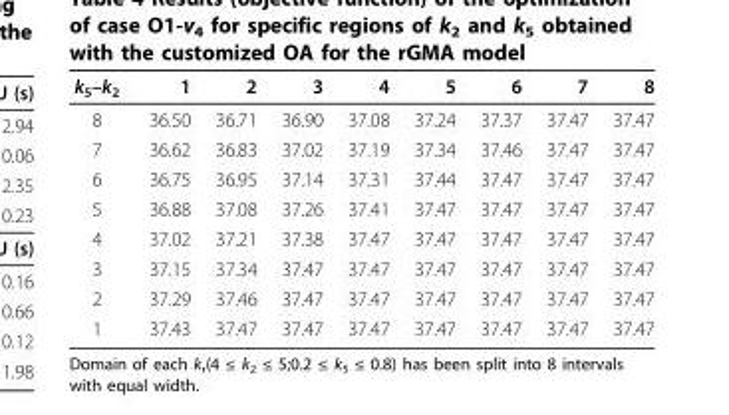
<table><thead><tr><td>k5–k2</td><td>1</td><td>2</td><td>3</td><td>4</td><td>5</td><td>6</td><td>7</td><td>8</td></tr></thead><tbody><tr><td>8</td><td>36.50</td><td>36.71</td><td>36.90</td><td>37.08</td><td>37.24</td><td>37.37</td><td>37.47</td><td>37.47</td></tr><tr><td>7</td><td>36.62</td><td>36.83</td><td>37.02</td><td>37.19</td><td>37.34</td><td>37.46</td><td>37.47</td><td>37.47</td></tr><tr><td>6</td><td>36.75</td><td>36.95</td><td>37.14</td><td>37.31</td><td>37.44</td><td>37.47</td><td>37.47</td><td>37.47</td></tr><tr><td>5</td><td>36.88</td><td>37.08</td><td>37.26</td><td>37.41</td><td>37.47</td><td>37.47</td><td>37.47</td><td>37.47</td></tr><tr><td>4</td><td>37.02</td><td>37.21</td><td>37.38</td><td>37.47</td><td>37.47</td><td>37.47</td><td>37.47</td><td>37.47</td></tr><tr><td>3</td><td>37.15</td><td>37.34</td><td>37.47</td><td>37.47</td><td>37.47</td><td>37.47</td><td>37.47</td><td>37.47</td></tr><tr><td>2</td><td>37.29</td><td>37.46</td><td>37.47</td><td>37.47</td><td>37.47</td><td>37.47</td><td>37.47</td><td>37.47</td></tr><tr><td>1</td><td>37.43</td><td>37.47</td><td>37.47</td><td>37.47</td><td>37.47</td><td>37.47</td><td>37.47</td><td>37.47</td></tr></tbody></table>